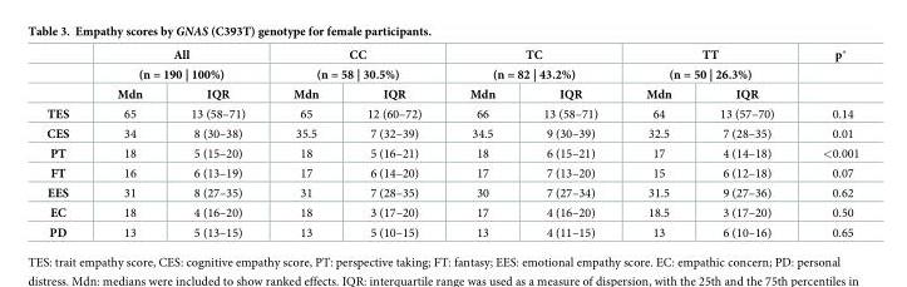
<table><thead><tr><td rowspan="3"></td><td rowspan="2" colspan="2">All (n = 190 | 100%)</td><td rowspan="2" colspan="2">CC (n = 58 | 30.5%)</td><td rowspan="2" colspan="2">TC (n = 82 | 43.2%)</td><td rowspan="2" colspan="2">TT (n = 50 | 26.3%)</td><td rowspan="3">p*</td></tr><tr></tr><tr><td>Mdn</td><td>IQR</td><td>Mdn</td><td>IQR</td><td>Mdn</td><td>IQR</td><td>Mdn</td><td>IQR</td></tr></thead><tbody><tr><td>TES</td><td>65</td><td>13 (58–71)</td><td>65</td><td>12 (60–72)</td><td>66</td><td>13 (58–71)</td><td>64</td><td>13 (57–70)</td><td>0.14</td></tr><tr><td>CES</td><td>34</td><td>8 (30–38)</td><td>35.5</td><td>7 (32–39)</td><td>34.5</td><td>9 (30–39)</td><td>32.5</td><td>7 (28–35)</td><td>0.01</td></tr><tr><td>PT</td><td>18</td><td>5 (15–20)</td><td>18</td><td>5 (16–21)</td><td>18</td><td>6 (15–21)</td><td>17</td><td>4 (14–18)</td><td>&lt;0.001</td></tr><tr><td>FT</td><td>16</td><td>6 (13–19)</td><td>17</td><td>6 (14–20)</td><td>17</td><td>7 (13–20)</td><td>15</td><td>6 (12–18)</td><td>0.07</td></tr><tr><td>EES</td><td>31</td><td>8 (27–35)</td><td>31</td><td>7 (28–35)</td><td>30</td><td>7 (27–34)</td><td>31.5</td><td>9 (27–36)</td><td>0.62</td></tr><tr><td>EC</td><td>18</td><td>4 (16–20)</td><td>18</td><td>3 (17–20)</td><td>17</td><td>4 (16–20)</td><td>18.5</td><td>3 (17–20)</td><td>0.50</td></tr><tr><td>PD</td><td>13</td><td>5 (13–15)</td><td>13</td><td>5 (10–15)</td><td>13</td><td>4 (11–15)</td><td>13</td><td>6 (10–16)</td><td>0.65</td></tr></tbody></table>